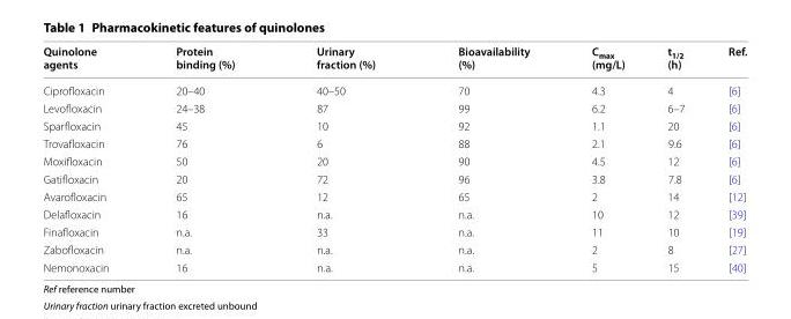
<table><thead><tr><td>Quinolone agents</td><td>Protein binding (%)</td><td>Urinary fraction (%)</td><td>Bioavailability (%)</td><td>C<sub>max</sub> (mg/L)</td><td>t<sub>1/2</sub> (h)</td><td>Ref.</td></tr></thead><tbody><tr><td>Ciprofloxacin</td><td>20–40</td><td>40–50</td><td>70</td><td>4.3</td><td>4</td><td>[6]</td></tr><tr><td>Levofloxacin</td><td>24–38</td><td>87</td><td>99</td><td>6.2</td><td>6–7</td><td>[6]</td></tr><tr><td>Sparfloxacin</td><td>45</td><td>10</td><td>92</td><td>1.1</td><td>20</td><td>[6]</td></tr><tr><td>Trovafloxacin</td><td>76</td><td>6</td><td>88</td><td>2.1</td><td>9.6</td><td>[6]</td></tr><tr><td>Moxifloxacin</td><td>50</td><td>20</td><td>90</td><td>4.5</td><td>12</td><td>[6]</td></tr><tr><td>Gatifloxacin</td><td>20</td><td>72</td><td>96</td><td>3.8</td><td>7.8</td><td>[6]</td></tr><tr><td>Avarofloxacin</td><td>65</td><td>12</td><td>65</td><td>2</td><td>14</td><td>[12]</td></tr><tr><td>Delafloxacin</td><td>16</td><td>n.a.</td><td>n.a.</td><td>10</td><td>12</td><td>[39]</td></tr><tr><td>Finafloxacin</td><td>n.a.</td><td>33</td><td>n.a.</td><td>11</td><td>10</td><td>[19]</td></tr><tr><td>Zabofloxacin</td><td>n.a.</td><td>n.a.</td><td>n.a.</td><td>2</td><td>8</td><td>[27]</td></tr><tr><td>Nemonoxacin</td><td>16</td><td>n.a.</td><td>n.a.</td><td>5</td><td>15</td><td>[40]</td></tr></tbody></table>